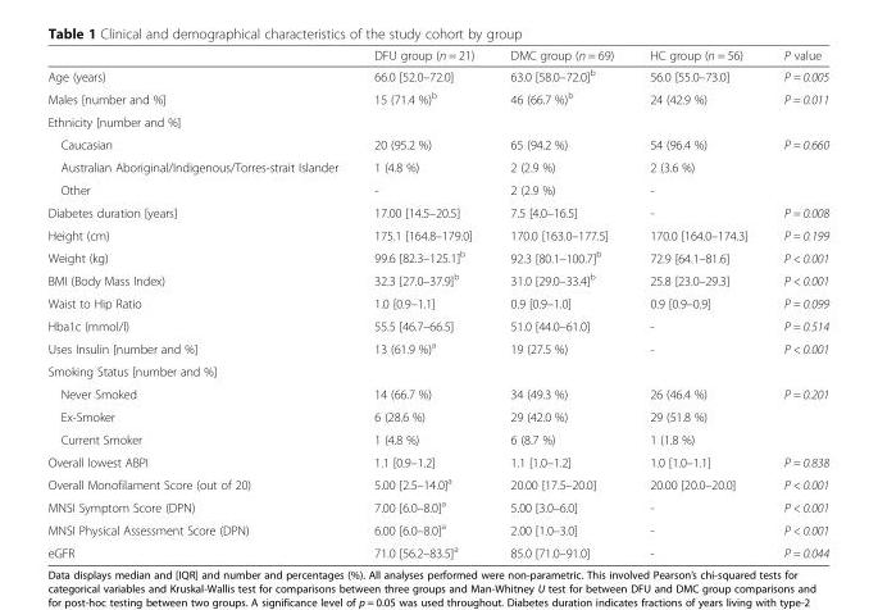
<table><thead><tr><td></td><td>DFU group (n = 21)</td><td>DMC group (n = 69)</td><td>HC group (n = 56)</td><td>P value</td></tr></thead><tbody><tr><td>Age (years)</td><td>66.0 [52.0–72.0]</td><td>63.0 [58.0–72.0]<sup>b</sup></td><td>56.0 [55.0–73.0]</td><td>P = 0.005</td></tr><tr><td>Males [number and %]</td><td>15 (71.4 %)<sup>b</sup></td><td>46 (66.7 %)<sup>b</sup></td><td>24 (42.9 %)</td><td>P = 0.011</td></tr><tr><td colspan="5">Ethnicity [number and %]</td></tr><tr><td>Caucasian</td><td>20 (95.2 %)</td><td>65 (94.2 %)</td><td>54 (96.4 %)</td><td rowspan="3">P = 0.660</td></tr><tr><td>Australian Aboriginal/Indigenous/Torres-strait Islander</td><td>1 (4.8 %)</td><td>2 (2.9 %)</td><td>2 (3.6 %)</td></tr><tr><td>Other</td><td>-</td><td>2 (2.9 %)</td><td>-</td></tr><tr><td>Diabetes duration [years]</td><td>17.00 [14.5–20.5]</td><td>7.5 [4.0–16.5]</td><td>-</td><td>P = 0.008</td></tr><tr><td>Height (cm)</td><td>175.1 [164.8–179.0]</td><td>170.0 [163.0–177.5]</td><td>170.0 [164.0–174.3]</td><td>P = 0.199</td></tr><tr><td>Weight (kg)</td><td>99.6 [82.3–125.1]<sup>b</sup></td><td>92.3 [80.1–100.7]<sup>b</sup></td><td>72.9 [64.1–81.6]</td><td>P &lt; 0.001</td></tr><tr><td>BMI (Body Mass Index)</td><td>32.3 [27.0–37.9]<sup>b</sup></td><td>31.0 [29.0–33.4]<sup>b</sup></td><td>25.8 [23.0–29.3]</td><td>P &lt; 0.001</td></tr><tr><td>Waist to Hip Ratio</td><td>1.0 [0.9–1.1]</td><td>0.9 [0.9–1.0]</td><td>0.9 [0.9–0.9]</td><td>P = 0.099</td></tr><tr><td>Hba1c (mmol/l)</td><td>55.5 [46.7–66.5]</td><td>51.0 [44.0–61.0]</td><td>-</td><td>P = 0.514</td></tr><tr><td>Uses Insulin [number and %]</td><td>13 (61.9 %)<sup>a</sup></td><td>19 (27.5 %)</td><td>-</td><td>P &lt; 0.001</td></tr><tr><td colspan="5">Smoking Status [number and %]</td></tr><tr><td>Never Smoked</td><td>14 (66.7 %)</td><td>34 (49.3 %)</td><td>26 (46.4 %)</td><td rowspan="3">P = 0.201</td></tr><tr><td>Ex-Smoker</td><td>6 (28.6 %)</td><td>29 (42.0 %)</td><td>29 (51.8 %)</td></tr><tr><td>Current Smoker</td><td>1 (4.8 %)</td><td>6 (8.7 %)</td><td>1 (1.8 %)</td></tr><tr><td>Overall lowest ABPI</td><td>1.1 [0.9–1.2]</td><td>1.1 [1.0–1.2]</td><td>1.0 [1.0–1.1]</td><td>P = 0.838</td></tr><tr><td>Overall Monofilament Score (out of 20)</td><td>5.00 [2.5–14.0]<sup>a</sup></td><td>20.00 [17.5–20.0]</td><td>20.00 [20.0–20.0]</td><td>P &lt; 0.001</td></tr><tr><td>MNSI Symptom Score (DPN)</td><td>7.00 [6.0–8.0]<sup>a</sup></td><td>5.00 [3.0–6.0]</td><td>-</td><td>P &lt; 0.001</td></tr><tr><td>MNSI Physical Assessment Score (DPN)</td><td>6.00 [6.0–8.0]<sup>a</sup></td><td>2.00 [1.0–3.0]</td><td>-</td><td>P &lt; 0.001</td></tr><tr><td>eGFR</td><td>71.0 [56.2–83.5]<sup>a</sup></td><td>85.0 [71.0–91.0]</td><td>-</td><td>P = 0.044</td></tr></tbody></table>